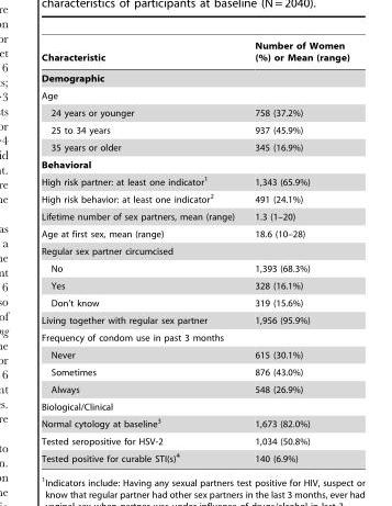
<table><thead><tr><td>Characteristic</td><td>Number of Women (%) or Mean (range)</td></tr></thead><tbody><tr><td colspan="2">Demographic</td></tr><tr><td colspan="2">Age</td></tr><tr><td>24 years or younger</td><td>758 (37.2%)</td></tr><tr><td>25 to 34 years</td><td>937 (45.9%)</td></tr><tr><td>35 years or older</td><td>345 (16.9%)</td></tr><tr><td colspan="2">Behavioral</td></tr><tr><td>High risk partner: at least one indicator<sup>1</sup></td><td>1,343 (65.9%)</td></tr><tr><td>High risk behavior: at least one indicator<sup>2</sup></td><td>491 (24.1%)</td></tr><tr><td>Lifetime number of sex partners, mean (range)</td><td>1.3 (1–20)</td></tr><tr><td>Age at first sex, mean (range)</td><td>18.6 (10–28)</td></tr><tr><td colspan="2">Regular sex partner circumcised</td></tr><tr><td>No</td><td>1,393 (68.3%)</td></tr><tr><td>Yes</td><td>328 (16.1%)</td></tr><tr><td>Don’t know</td><td>319 (15.6%)</td></tr><tr><td>Living together with regular sex partner</td><td>1,956 (95.9%)</td></tr><tr><td colspan="2">Frequency of condom use in past 3 months</td></tr><tr><td>Never</td><td>615 (30.1%)</td></tr><tr><td>Sometimes</td><td>876 (43.0%)</td></tr><tr><td>Always</td><td>548 (26.9%)</td></tr><tr><td colspan="2">Biological/Clinical</td></tr><tr><td>Normal cytology at baseline<sup>3</sup></td><td>1,673 (82.0%)</td></tr><tr><td>Tested seropositive for HSV-2</td><td>1,034 (50.8%)</td></tr><tr><td>Tested positive for curable STI(s)<sup>4</sup></td><td>140 (6.9%)</td></tr></tbody></table>